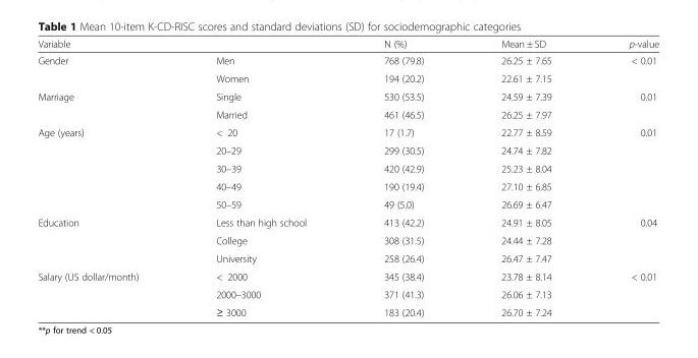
<table><thead><tr><td>Variable</td><td></td><td>N (%)</td><td>Mean ± SD</td><td>p-value</td></tr></thead><tbody><tr><td rowspan="2">Gender</td><td>Men</td><td>768 (79.8)</td><td>26.25 ± 7.65</td><td>&lt; 0.01</td></tr><tr><td>Women</td><td>194 (20.2)</td><td>22.61 ± 7.15</td><td></td></tr><tr><td rowspan="2">Marriage</td><td>Single</td><td>530 (53.5)</td><td>24.59 ± 7.39</td><td>0.01</td></tr><tr><td>Married</td><td>461 (46.5)</td><td>26.25 ± 7.97</td><td></td></tr><tr><td rowspan="5">Age (years)</td><td>&lt; 20</td><td>17 (1.7)</td><td>22.77 ± 8.59</td><td>0.01</td></tr><tr><td>20–29</td><td>299 (30.5)</td><td>24.74 ± 7.82</td><td></td></tr><tr><td>30–39</td><td>420 (42.9)</td><td>25.23 ± 8.04</td><td></td></tr><tr><td>40–49</td><td>190 (19.4)</td><td>27.10 ± 6.85</td><td></td></tr><tr><td>50–59</td><td>49 (5.0)</td><td>26.69 ± 6.47</td><td></td></tr><tr><td rowspan="3">Education</td><td>Less than high school</td><td>413 (42.2)</td><td>24.91 ± 8.05</td><td>0.04</td></tr><tr><td>College</td><td>308 (31.5)</td><td>24.44 ± 7.28</td><td></td></tr><tr><td>University</td><td>258 (26.4)</td><td>26.47 ± 7.47</td><td></td></tr><tr><td rowspan="3">Salary (US dollar/month)</td><td>&lt; 2000</td><td>345 (38.4)</td><td>23.78 ± 8.14</td><td>&lt; 0.01</td></tr><tr><td>2000–3000</td><td>371 (41.3)</td><td>26.06 ± 7.13</td><td></td></tr><tr><td>≥ 3000</td><td>183 (20.4)</td><td>26.70 ± 7.24</td><td></td></tr></tbody></table>